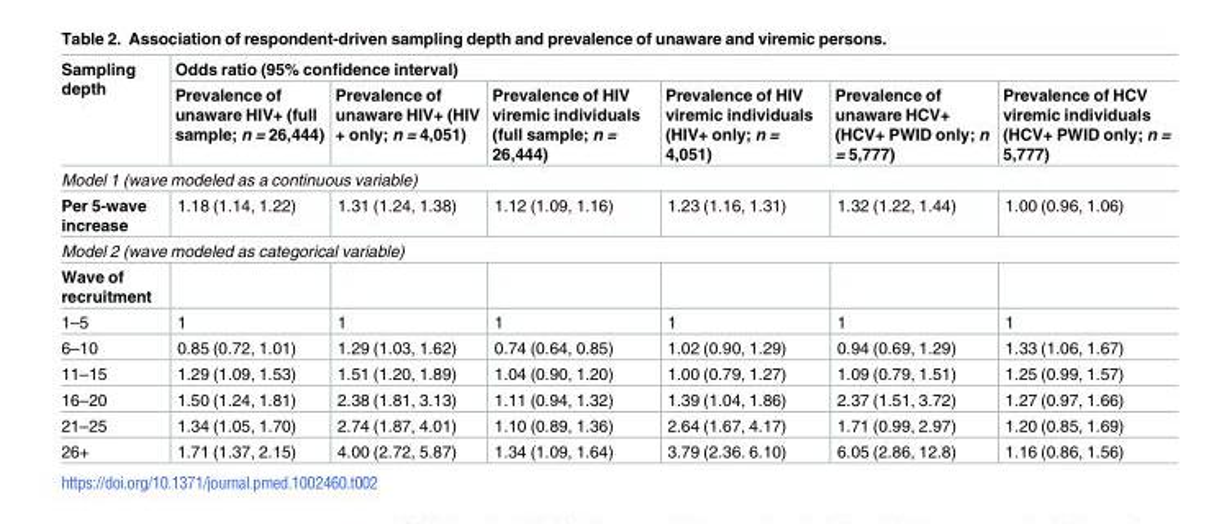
<table><thead><tr><td rowspan="2">Sampling depth</td><td colspan="6">Odds ratio (95% confidence interval)</td></tr><tr><td>Prevalence of unaware HIV+ (full sample; n = 26,444)</td><td>Prevalence of unaware HIV+ (HIV + only; n = 4,051)</td><td>Prevalence of HIV viremic individuals (full sample; n = 26,444)</td><td>Prevalence of HIV viremic individuals (HIV+ only; n = 4,051)</td><td>Prevalence of unaware HCV+ (HCV+ PWID only; n = 5,777)</td><td>Prevalence of HCV viremic individuals (HCV+ PWID only; n = 5,777)</td></tr></thead><tbody><tr><td colspan="7">Model 1 (wave modeled as a continuous variable)</td></tr><tr><td>Per 5-wave increase</td><td>1.18 (1.14, 1.22)</td><td>1.31 (1.24, 1.38)</td><td>1.12 (1.09, 1.16)</td><td>1.23 (1.16, 1.31)</td><td>1.32 (1.22, 1.44)</td><td>1.00 (0.96, 1.06)</td></tr><tr><td colspan="7">Model 2 (wave modeled as categorical variable)</td></tr><tr><td colspan="7">Wave of recruitment</td></tr><tr><td>1–5</td><td>1</td><td>1</td><td>1</td><td>1</td><td>1</td><td>1</td></tr><tr><td>6–10</td><td>0.85 (0.72, 1.01)</td><td>1.29 (1.03, 1.62)</td><td>0.74 (0.64, 0.85)</td><td>1.02 (0.90, 1.29)</td><td>0.94 (0.69, 1.29)</td><td>1.33 (1.06, 1.67)</td></tr><tr><td>11–15</td><td>1.29 (1.09, 1.53)</td><td>1.51 (1.20, 1.89)</td><td>1.04 (0.90, 1.20)</td><td>1.00 (0.79, 1.27)</td><td>1.09 (0.79, 1.51)</td><td>1.25 (0.99, 1.57)</td></tr><tr><td>16–20</td><td>1.50 (1.24, 1.81)</td><td>2.38 (1.81, 3.13)</td><td>1.11 (0.94, 1.32)</td><td>1.39 (1.04, 1.86)</td><td>2.37 (1.51, 3.72)</td><td>1.27 (0.97, 1.66)</td></tr><tr><td>21–25</td><td>1.34 (1.05, 1.70)</td><td>2.74 (1.87, 4.01)</td><td>1.10 (0.89, 1.36)</td><td>2.64 (1.67, 4.17)</td><td>1.71 (0.99, 2.97)</td><td>1.20 (0.85, 1.69)</td></tr><tr><td>26+</td><td>1.71 (1.37, 2.15)</td><td>4.00 (2.72, 5.87)</td><td>1.34 (1.09, 1.64)</td><td>3.79 (2.36. 6.10)</td><td>6.05 (2.86, 12.8)</td><td>1.16 (0.86, 1.56)</td></tr></tbody></table>